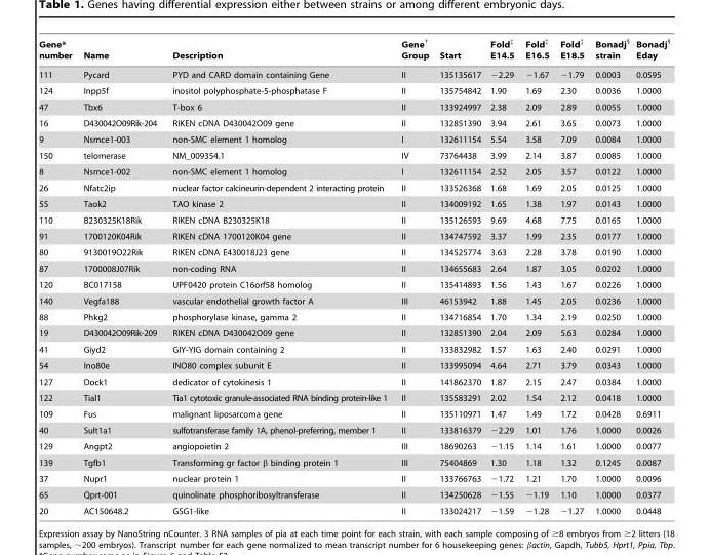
<table><thead><tr><td>Gene* number</td><td>Name</td><td>Description</td><td>Gene† Group</td><td>Start</td><td>Fold‡ E14.5</td><td>Fold‡ E16.5</td><td>Fold‡ E18.5</td><td>Bonadj§ strain</td><td>Bonadj§ Eday</td></tr></thead><tbody><tr><td>111</td><td>Pycard</td><td>PYD and CARD domain containing Gene</td><td>II</td><td>135135617</td><td>−2.29</td><td>−1.67</td><td>−1.79</td><td>0.0003</td><td>0.0595</td></tr><tr><td>124</td><td>Inpp5f</td><td>inositol polyphosphate-5-phosphatase F</td><td>II</td><td>135754842</td><td>1.90</td><td>1.69</td><td>2.30</td><td>0.0036</td><td>1.0000</td></tr><tr><td>47</td><td>Tbx6</td><td>T-box 6</td><td>II</td><td>133924997</td><td>2.38</td><td>2.09</td><td>2.89</td><td>0.0055</td><td>1.0000</td></tr><tr><td>16</td><td>D430042O09Rik-204</td><td>RIKEN cDNA D430042O09 gene</td><td>II</td><td>132851390</td><td>3.94</td><td>2.61</td><td>3.65</td><td>0.0073</td><td>1.0000</td></tr><tr><td>9</td><td>Nsmce1-003</td><td>non-SMC element 1 homolog</td><td>I</td><td>132611154</td><td>5.54</td><td>3.58</td><td>7.09</td><td>0.0084</td><td>1.0000</td></tr><tr><td>150</td><td>telomerase</td><td>NM_009354.1</td><td>IV</td><td>73764438</td><td>3.99</td><td>2.14</td><td>3.87</td><td>0.0085</td><td>1.0000</td></tr><tr><td>8</td><td>Nsmce1-002</td><td>non-SMC element 1 homolog</td><td>I</td><td>132611154</td><td>2.52</td><td>2.05</td><td>3.57</td><td>0.0122</td><td>1.0000</td></tr><tr><td>26</td><td>Nfatc2ip</td><td>nuclear factor calcineurin-dependent 2 interacting protein</td><td>II</td><td>133526368</td><td>1.68</td><td>1.69</td><td>2.05</td><td>0.0125</td><td>1.0000</td></tr><tr><td>55</td><td>Taok2</td><td>TAO kinase 2</td><td>II</td><td>134009192</td><td>1.65</td><td>1.38</td><td>1.97</td><td>0.0143</td><td>1.0000</td></tr><tr><td>110</td><td>B230325K18Rik</td><td>RIKEN cDNA B230325K18</td><td>II</td><td>135126593</td><td>9.69</td><td>4.68</td><td>7.75</td><td>0.0165</td><td>1.0000</td></tr><tr><td>91</td><td>1700120K04Rik</td><td>RIKEN cDNA 1700120K04 gene</td><td>II</td><td>134747592</td><td>3.37</td><td>1.99</td><td>2.35</td><td>0.0177</td><td>1.0000</td></tr><tr><td>80</td><td>9130019O22Rik</td><td>RIKEN cDNA E430018J23 gene</td><td>II</td><td>134525774</td><td>3.63</td><td>2.28</td><td>3.78</td><td>0.0190</td><td>1.0000</td></tr><tr><td>87</td><td>1700008J07Rik</td><td>non-coding RNA</td><td>II</td><td>134655683</td><td>2.64</td><td>1.87</td><td>3.05</td><td>0.0202</td><td>1.0000</td></tr><tr><td>120</td><td>BC017158</td><td>UPF0420 protein C16orf58 homolog</td><td>II</td><td>135414893</td><td>1.56</td><td>1.43</td><td>1.67</td><td>0.0226</td><td>1.0000</td></tr><tr><td>140</td><td>Vegfa188</td><td>vascular endothelial growth factor A</td><td>III</td><td>46153942</td><td>1.88</td><td>1.45</td><td>2.05</td><td>0.0236</td><td>1.0000</td></tr><tr><td>88</td><td>Phkg2</td><td>phosphorylase kinase, gamma 2</td><td>II</td><td>134716854</td><td>1.70</td><td>1.34</td><td>2.19</td><td>0.0250</td><td>1.0000</td></tr><tr><td>19</td><td>D430042O09Rik-209</td><td>RIKEN cDNA D430042O09 gene</td><td>II</td><td>132851390</td><td>2.04</td><td>2.09</td><td>5.63</td><td>0.0284</td><td>1.0000</td></tr><tr><td>41</td><td>Giyd2</td><td>GIY-YIG domain containing 2</td><td>II</td><td>133832982</td><td>1.57</td><td>1.63</td><td>2.40</td><td>0.0291</td><td>1.0000</td></tr><tr><td>54</td><td>Ino80e</td><td>INO80 complex subunit E</td><td>II</td><td>133995094</td><td>4.64</td><td>2.71</td><td>3.79</td><td>0.0343</td><td>1.0000</td></tr><tr><td>127</td><td>Dock1</td><td>dedicator of cytokinesis 1</td><td>II</td><td>141862370</td><td>1.87</td><td>2.15</td><td>2.47</td><td>0.0384</td><td>1.0000</td></tr><tr><td>122</td><td>Tial1</td><td>Tia1 cytotoxic granule-associated RNA binding protein-like 1</td><td>II</td><td>135583291</td><td>2.02</td><td>1.54</td><td>2.12</td><td>0.0418</td><td>1.0000</td></tr><tr><td>109</td><td>Fus</td><td>malignant liposarcoma gene</td><td>II</td><td>135110971</td><td>1.47</td><td>1.49</td><td>1.72</td><td>0.0428</td><td>0.6911</td></tr><tr><td>40</td><td>Sult1a1</td><td>sulfotransferase family 1A, phenol-preferring, member 1</td><td>II</td><td>133816379</td><td>−2.29</td><td>1.01</td><td>1.76</td><td>1.0000</td><td>0.0026</td></tr><tr><td>129</td><td>Angpt2</td><td>angiopoietin 2</td><td>III</td><td>18690263</td><td>−1.15</td><td>1.14</td><td>1.61</td><td>1.0000</td><td>0.0077</td></tr><tr><td>139</td><td>Tgfb1</td><td>Transforming gr factor β binding protein 1</td><td>III</td><td>75404869</td><td>1.30</td><td>1.18</td><td>1.32</td><td>0.1245</td><td>0.0087</td></tr><tr><td>37</td><td>Nupr1</td><td>nuclear protein 1</td><td>II</td><td>133766763</td><td>−1.72</td><td>1.21</td><td>1.70</td><td>1.0000</td><td>0.0096</td></tr><tr><td>65</td><td>Qprt-001</td><td>quinolinate phosphoribosyltransferase</td><td>II</td><td>134250628</td><td>−1.55</td><td>−1.19</td><td>1.10</td><td>1.0000</td><td>0.0377</td></tr><tr><td>20</td><td>AC150648.2</td><td>GSG1-like</td><td>II</td><td>133024217</td><td>−1.59</td><td>−1.28</td><td>−1.27</td><td>1.0000</td><td>0.0448</td></tr></tbody></table>